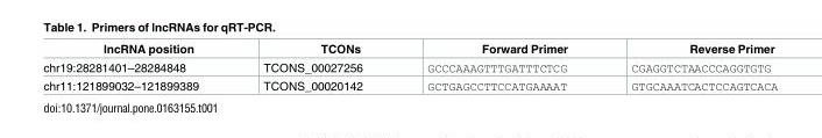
<table><thead><tr><td>lncRNA position</td><td>TCONs</td><td>Forward Primer</td><td>Reverse Primer</td></tr></thead><tbody><tr><td>chr19:28281401–28284848</td><td>TCONS_00027256</td><td>GCCCAAAGTTTGATTTCTCG</td><td>CGAGGTCTAACCCAGGTGTG</td></tr><tr><td>chr11:121899032–121899389</td><td>TCONS_00020142</td><td>GCTGAGCCTTCCATGAAAAT</td><td>GTGCAAATCACTCCAGTCACA</td></tr></tbody></table>